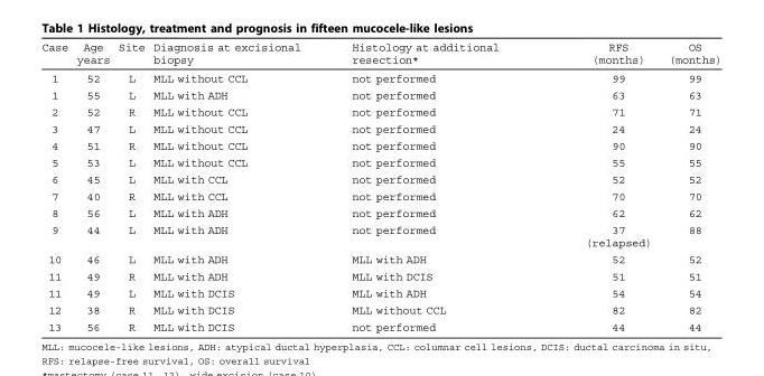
<table><thead><tr><td>Case</td><td>Age years</td><td>Site</td><td>Diagnosis at excisional biopsy</td><td>Histology at additional resection*</td><td>RFS (months)</td><td>OS (months)</td></tr></thead><tbody><tr><td>1</td><td>52</td><td>L</td><td>MLL without CCL</td><td>not performed</td><td>99</td><td>99</td></tr><tr><td>1</td><td>55</td><td>L</td><td>MLL with ADH</td><td>not performed</td><td>63</td><td>63</td></tr><tr><td>2</td><td>52</td><td>R</td><td>MLL without CCL</td><td>not performed</td><td>71</td><td>71</td></tr><tr><td>3</td><td>47</td><td>L</td><td>MLL without CCL</td><td>not performed</td><td>24</td><td>24</td></tr><tr><td>4</td><td>51</td><td>R</td><td>MLL without CCL</td><td>not performed</td><td>90</td><td>90</td></tr><tr><td>5</td><td>53</td><td>L</td><td>MLL without CCL</td><td>not performed</td><td>55</td><td>55</td></tr><tr><td>6</td><td>45</td><td>L</td><td>MLL with CCL</td><td>not performed</td><td>52</td><td>52</td></tr><tr><td>7</td><td>40</td><td>R</td><td>MLL with CCL</td><td>not performed</td><td>70</td><td>70</td></tr><tr><td>8</td><td>56</td><td>L</td><td>MLL with ADH</td><td>not performed</td><td>62</td><td>62</td></tr><tr><td>9</td><td>44</td><td>L</td><td>MLL with ADH</td><td>not performed</td><td>37 (relapsed)</td><td>88</td></tr><tr><td>10</td><td>46</td><td>L</td><td>MLL with ADH</td><td>MLL with ADH</td><td>52</td><td>52</td></tr><tr><td>11</td><td>49</td><td>R</td><td>MLL with ADH</td><td>MLL with DCIS</td><td>51</td><td>51</td></tr><tr><td>11</td><td>49</td><td>L</td><td>MLL with DCIS</td><td>MLL with ADH</td><td>54</td><td>54</td></tr><tr><td>12</td><td>38</td><td>R</td><td>MLL with DCIS</td><td>MLL without CCL</td><td>82</td><td>82</td></tr><tr><td>13</td><td>56</td><td>R</td><td>MLL with DCIS</td><td>not performed</td><td>44</td><td>44</td></tr></tbody></table>